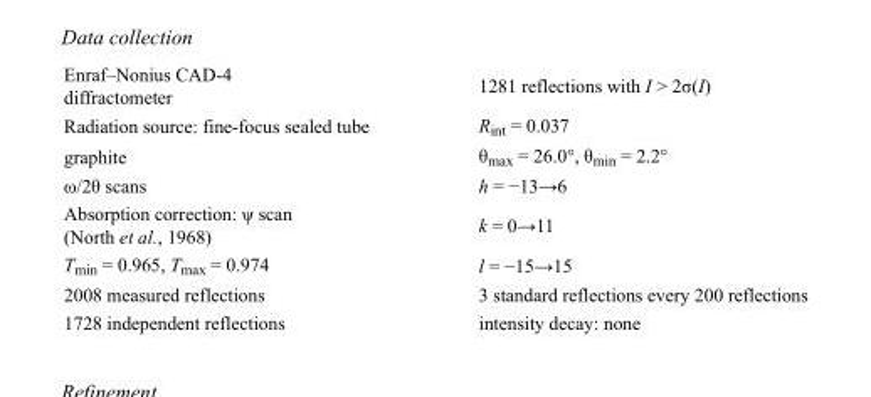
<table><tbody><tr><td>Enraf–Nonius CAD-4 diffractometer</td><td>1281 reflections with I &gt; 2σ(I)</td></tr><tr><td>Radiation source: fine-focus sealed tube</td><td>R<sub>int</sub> = 0.037</td></tr><tr><td>graphite</td><td>θ<sub>max</sub> = 26.0°, θ<sub>min</sub> = 2.2°</td></tr><tr><td>ω/2θ scans</td><td>h = −13→6</td></tr><tr><td>Absorption correction: ψ scan (North et al., 1968)</td><td>k = 0→11</td></tr><tr><td>T<sub>min</sub> = 0.965, T<sub>max</sub> = 0.974</td><td>l = −15→15</td></tr><tr><td>2008 measured reflections</td><td>3 standard reflections every 200 reflections</td></tr><tr><td>1728 independent reflections</td><td>intensity decay: none</td></tr></tbody></table>